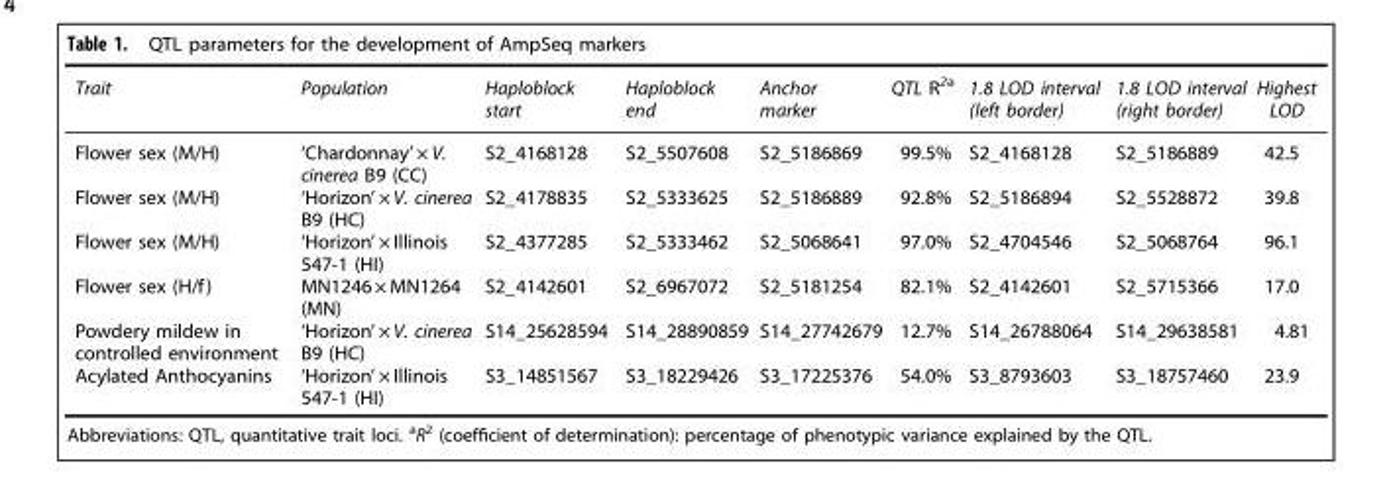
<table><thead><tr><td>Trait</td><td>Population</td><td>Haploblock start</td><td>Haploblock end</td><td>Anchor marker</td><td>QTL R<sup>2</sup>a</td><td>1.8 LOD interval (left border)</td><td>1.8 LOD interval (right border)</td><td>Highest LOD</td></tr></thead><tbody><tr><td>Flower sex (M/H)</td><td>‘Chardonnay’ × V. cinerea B9 (CC)</td><td>S2_4168128</td><td>S2_5507608</td><td>S2_5186869</td><td>99.5%</td><td>S2_4168128</td><td>S2_5186889</td><td>42.5</td></tr><tr><td>Flower sex (M/H)</td><td>‘Horizon’ × V. cinerea B9 (HC)</td><td>S2_4178835</td><td>S2_5333625</td><td>S2_5186889</td><td>92.8%</td><td>S2_5186894</td><td>S2_5528872</td><td>39.8</td></tr><tr><td>Flower sex (M/H)</td><td>‘Horizon’ × Illinois 547-1 (HI)</td><td>S2_4377285</td><td>S2_5333462</td><td>S2_5068641</td><td>97.0%</td><td>S2_4704546</td><td>S2_5068764</td><td>96.1</td></tr><tr><td>Flower sex (H/f)</td><td>MN1246 × MN1264 (MN)</td><td>S2_4142601</td><td>S2_6967072</td><td>S2_5181254</td><td>82.1%</td><td>S2_4142601</td><td>S2_5715366</td><td>17.0</td></tr><tr><td>Powdery mildew in controlled environment</td><td>‘Horizon’ × V. cinerea B9 (HC)</td><td>S14_25628594</td><td>S14_28890859</td><td>S14_27742679</td><td>12.7%</td><td>S14_26788064</td><td>S14_29638581</td><td>4.81</td></tr><tr><td>Acylated Anthocyanins</td><td>‘Horizon’ × Illinois 547-1 (HI)</td><td>S3_14851567</td><td>S3_18229426</td><td>S3_17225376</td><td>54.0%</td><td>S3_8793603</td><td>S3_18757460</td><td>23.9</td></tr></tbody></table>